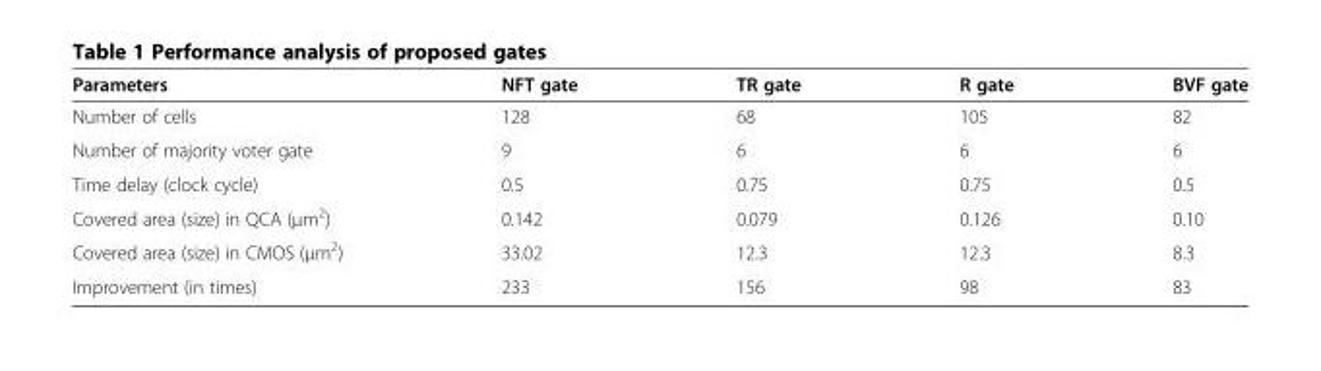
<table><thead><tr><td>Parameters</td><td>NFT gate</td><td>TR gate</td><td>R gate</td><td>BVF gate</td></tr></thead><tbody><tr><td>Number of cells</td><td>128</td><td>68</td><td>105</td><td>82</td></tr><tr><td>Number of majority voter gate</td><td>9</td><td>6</td><td>6</td><td>6</td></tr><tr><td>Time delay (clock cycle)</td><td>0.5</td><td>0.75</td><td>0.75</td><td>0.5</td></tr><tr><td>Covered area (size) in QCA (μm<sup>2</sup>)</td><td>0.142</td><td>0.079</td><td>0.126</td><td>0.10</td></tr><tr><td>Covered area (size) in CMOS (μm<sup>2</sup>)</td><td>33.02</td><td>12.3</td><td>12.3</td><td>8.3</td></tr><tr><td>Improvement (in times)</td><td>233</td><td>156</td><td>98</td><td>83</td></tr></tbody></table>